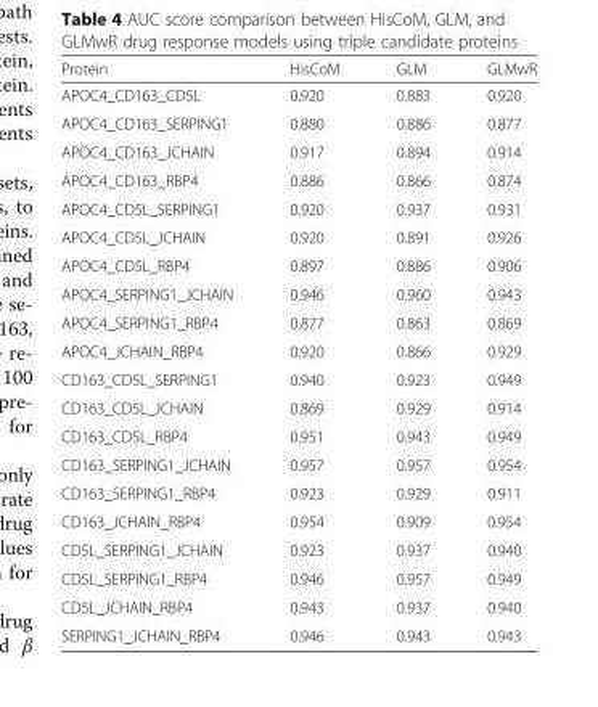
<table><thead><tr><td>Protein</td><td>HisCoM</td><td>GLM</td><td>GLMwR</td></tr></thead><tbody><tr><td>APOC4_CD163_CD5L</td><td>0.920</td><td>0.883</td><td>0.920</td></tr><tr><td>APOC4_CD163_SERPING1</td><td>0.880</td><td>0.886</td><td>0.877</td></tr><tr><td>APOC4_CD163_JCHAIN</td><td>0.917</td><td>0.894</td><td>0.914</td></tr><tr><td>APOC4_CD163_RBP4</td><td>0.886</td><td>0.866</td><td>0.874</td></tr><tr><td>APOC4_CD5L_SERPING1</td><td>0.920</td><td>0.937</td><td>0.931</td></tr><tr><td>APOC4_CD5L_JCHAIN</td><td>0.920</td><td>0.891</td><td>0.926</td></tr><tr><td>APOC4_CD5L_RBP4</td><td>0.897</td><td>0.886</td><td>0.906</td></tr><tr><td>APOC4_SERPING1_JCHAIN</td><td>0.946</td><td>0.960</td><td>0.943</td></tr><tr><td>APOC4_SERPING1_RBP4</td><td>0.877</td><td>0.863</td><td>0.869</td></tr><tr><td>APOC4_JCHAIN_RBP4</td><td>0.920</td><td>0.866</td><td>0.929</td></tr><tr><td>CD163_CD5L_SERPING1</td><td>0.940</td><td>0.923</td><td>0.949</td></tr><tr><td>CD163_CD5L_JCHAIN</td><td>0.869</td><td>0.929</td><td>0.914</td></tr><tr><td>CD163_CD5L_RBP4</td><td>0.951</td><td>0.943</td><td>0.949</td></tr><tr><td>CD163_SERPING1_JCHAIN</td><td>0.957</td><td>0.957</td><td>0.954</td></tr><tr><td>CD163_SERPING1_RBP4</td><td>0.923</td><td>0.929</td><td>0.911</td></tr><tr><td>CD163_JCHAIN_RBP4</td><td>0.954</td><td>0.909</td><td>0.954</td></tr><tr><td>CD5L_SERPING1_JCHAIN</td><td>0.923</td><td>0.937</td><td>0.940</td></tr><tr><td>CD5L_SERPING1_RBP4</td><td>0.946</td><td>0.957</td><td>0.949</td></tr><tr><td>CD5L_JCHAIN_RBP4</td><td>0.943</td><td>0.937</td><td>0.940</td></tr><tr><td>SERPING1_JCHAIN_RBP4</td><td>0.946</td><td>0.943</td><td>0.943</td></tr></tbody></table>